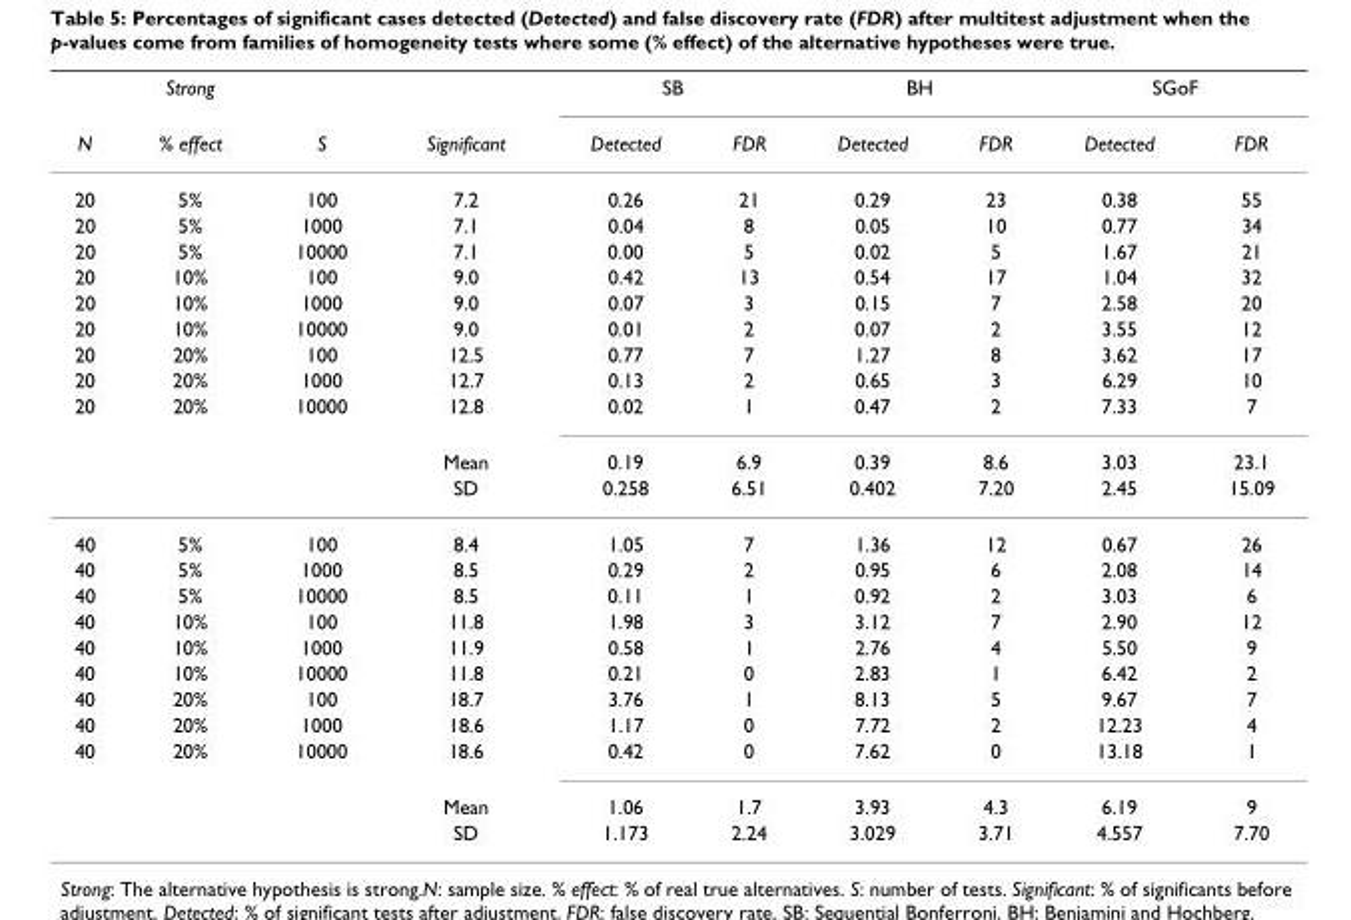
<table><thead><tr><td rowspan="2">N</td><td rowspan="2">Strong % effect</td><td rowspan="2">S</td><td rowspan="2">Significant</td><td colspan="2">SB</td><td colspan="2">BH</td><td colspan="2">SGoF</td></tr><tr><td>Detected</td><td>FDR</td><td>Detected</td><td>FDR</td><td>Detected</td><td>FDR</td></tr></thead><tbody><tr><td>20</td><td>5%</td><td>100</td><td>7.2</td><td>0.26</td><td>21</td><td>0.29</td><td>23</td><td>0.38</td><td>55</td></tr><tr><td>20</td><td>5%</td><td>1000</td><td>7.1</td><td>0.04</td><td>8</td><td>0.05</td><td>10</td><td>0.77</td><td>34</td></tr><tr><td>20</td><td>5%</td><td>10000</td><td>7.1</td><td>0.00</td><td>5</td><td>0.02</td><td>5</td><td>1.67</td><td>21</td></tr><tr><td>20</td><td>10%</td><td>100</td><td>9.0</td><td>0.42</td><td>13</td><td>0.54</td><td>17</td><td>1.04</td><td>32</td></tr><tr><td>20</td><td>10%</td><td>1000</td><td>9.0</td><td>0.07</td><td>3</td><td>0.15</td><td>7</td><td>2.58</td><td>20</td></tr><tr><td>20</td><td>10%</td><td>10000</td><td>9.0</td><td>0.01</td><td>2</td><td>0.07</td><td>2</td><td>3.55</td><td>12</td></tr><tr><td>20</td><td>20%</td><td>100</td><td>12.5</td><td>0.77</td><td>7</td><td>1.27</td><td>8</td><td>3.62</td><td>17</td></tr><tr><td>20</td><td>20%</td><td>1000</td><td>12.7</td><td>0.13</td><td>2</td><td>0.65</td><td>3</td><td>6.29</td><td>10</td></tr><tr><td rowspan="3">20</td><td>20%</td><td>10000</td><td>12.8</td><td>0.02</td><td>1</td><td>0.47</td><td>2</td><td>7.33</td><td>7</td></tr><tr><td></td><td></td><td>Mean</td><td>0.19</td><td>6.9</td><td>0.39</td><td>8.6</td><td>3.03</td><td>23.1</td></tr><tr><td></td><td></td><td>SD</td><td>0.258</td><td>6.51</td><td>0.402</td><td>7.20</td><td>2.45</td><td>15.09</td></tr><tr><td>40</td><td>5%</td><td>100</td><td>8.4</td><td>1.05</td><td>7</td><td>1.36</td><td>12</td><td>0.67</td><td>26</td></tr><tr><td>40</td><td>5%</td><td>1000</td><td>8.5</td><td>0.29</td><td>2</td><td>0.95</td><td>6</td><td>2.08</td><td>14</td></tr><tr><td>40</td><td>5%</td><td>10000</td><td>8.5</td><td>0.11</td><td>1</td><td>0.92</td><td>2</td><td>3.03</td><td>6</td></tr><tr><td>40</td><td>10%</td><td>100</td><td>11.8</td><td>1.98</td><td>3</td><td>3.12</td><td>7</td><td>2.90</td><td>12</td></tr><tr><td>40</td><td>10%</td><td>1000</td><td>11.9</td><td>0.58</td><td>1</td><td>2.76</td><td>4</td><td>5.50</td><td>9</td></tr><tr><td>40</td><td>10%</td><td>10000</td><td>11.8</td><td>0.21</td><td>0</td><td>2.83</td><td>1</td><td>6.42</td><td>2</td></tr><tr><td>40</td><td>20%</td><td>100</td><td>18.7</td><td>3.76</td><td>1</td><td>8.13</td><td>5</td><td>9.67</td><td>7</td></tr><tr><td>40</td><td>20%</td><td>1000</td><td>18.6</td><td>1.17</td><td>0</td><td>7.72</td><td>2</td><td>12.23</td><td>4</td></tr><tr><td rowspan="3">40</td><td>20%</td><td>10000</td><td>18.6</td><td>0.42</td><td>0</td><td>7.62</td><td>0</td><td>13.18</td><td>1</td></tr><tr><td></td><td></td><td>Mean</td><td>1.06</td><td>1.7</td><td>3.93</td><td>4.3</td><td>6.19</td><td>9</td></tr><tr><td></td><td></td><td>SD</td><td>1.173</td><td>2.24</td><td>3.029</td><td>3.71</td><td>4.557</td><td>7.70</td></tr></tbody></table>